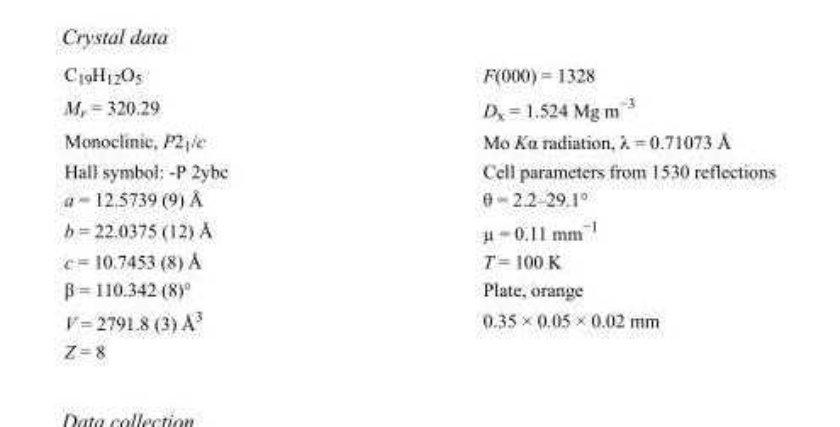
<table><tbody><tr><td>C<sub>19</sub>H<sub>12</sub>O<sub>5</sub></td><td>F(000) = 1328</td></tr><tr><td>M<sub>r</sub> = 320.29</td><td>D<sub>x</sub> = 1.524 Mg m<sup>−3</sup></td></tr><tr><td>Monoclinic, P2<sub>1</sub>/c</td><td>Mo Kα radiation, λ = 0.71073 Å</td></tr><tr><td>Hall symbol: -P 2ybc</td><td>Cell parameters from 1530 reflections</td></tr><tr><td>a = 12.5739 (9) Å</td><td>θ = 2.2–29.1°</td></tr><tr><td>b = 22.0375 (12) Å</td><td>µ = 0.11 mm<sup>−1</sup></td></tr><tr><td>c = 10.7453 (8) Å</td><td>T = 100 K</td></tr><tr><td>β = 110.342 (8)°</td><td>Plate, orange</td></tr><tr><td>V = 2791.8 (3) Å<sup>3</sup></td><td>0.35 × 0.05 × 0.02 mm</td></tr><tr><td>Z = 8</td><td></td></tr></tbody></table>